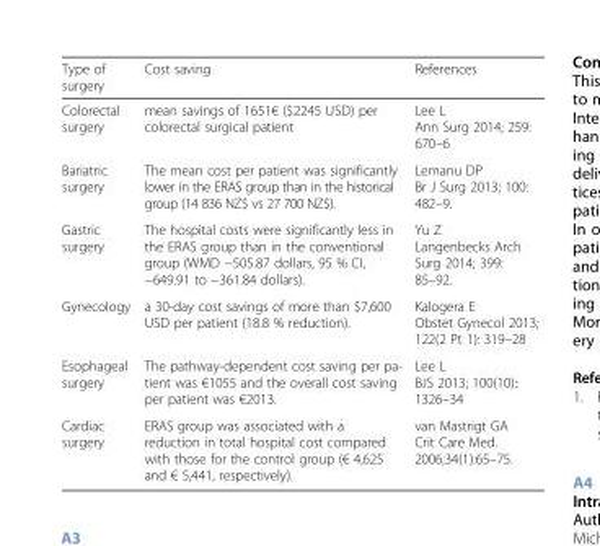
<table><thead><tr><td>Type of surgery</td><td>Cost saving</td><td>References</td></tr></thead><tbody><tr><td>Colorectal surgery</td><td>mean savings of 1651€ ($2245 USD) per colorectal surgical patient</td><td>Lee L Ann Surg 2014; 259: 670–6</td></tr><tr><td>Bariatric surgery</td><td>The mean cost per patient was significantly lower in the ERAS group than in the historical group (14 836 NZ$ vs 27 700 NZ$).</td><td>Lemanu DP Br J Surg 2013; 100: 482–9.</td></tr><tr><td>Gastric surgery</td><td>The hospital costs were significantly less in the ERAS group than in the conventional group (WMD −505.87 dollars, 95 % CI, −649.91 to −361.84 dollars).</td><td>Yu Z Langenbecks Arch Surg 2014; 399: 85–92.</td></tr><tr><td>Gynecology</td><td>a 30-day cost savings of more than $7,600 USD per patient (18.8 % reduction).</td><td>Kalogera E Obstet Gynecol 2013; 122(2 Pt 1): 319–28</td></tr><tr><td>Esophageal surgery</td><td>The pathway-dependent cost saving per pa- tient was €1055 and the overall cost saving per patient was €2013.</td><td>Lee L BJS 2013; 100(10):: 1326–34</td></tr><tr><td>Cardiac surgery</td><td>ERAS group was associated with a reduction in total hospital cost compared with those for the control group (€ 4,625 and € 5,441, respectively).</td><td>van Mastrigt GA Crit Care Med. 2006;34(1):65–75.</td></tr></tbody></table>